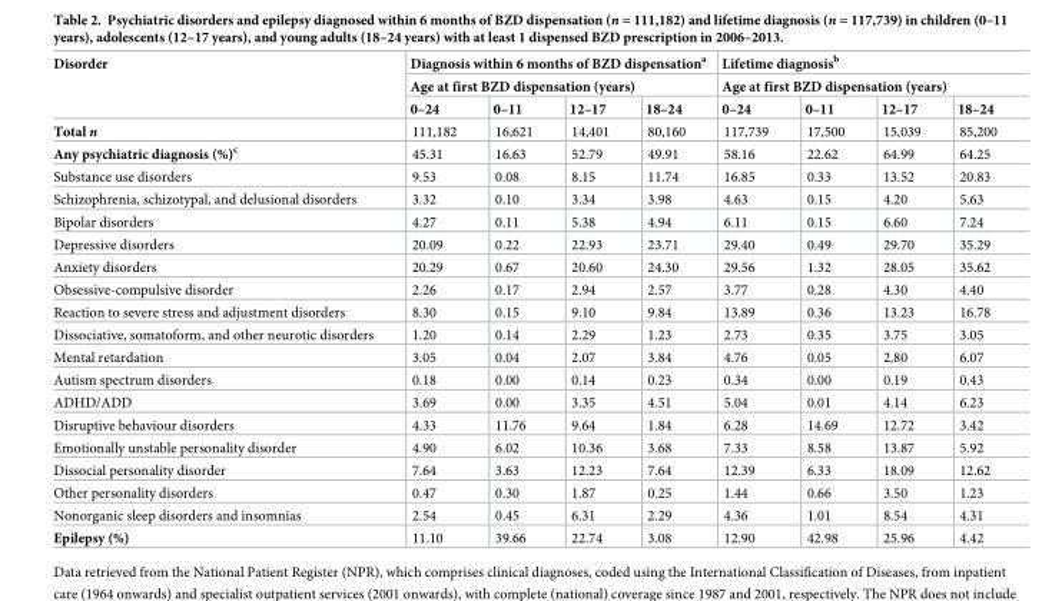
<table><thead><tr><td rowspan="3">Disorder</td><td rowspan="2" colspan="4">Diagnosis within 6 months of BZD dispensation<sup>a</sup> Age at first BZD dispensation (years)</td><td rowspan="2" colspan="4">Lifetime diagnosis<sup>b</sup> Age at first BZD dispensation (years)</td></tr><tr></tr><tr><td>0–24</td><td>0–11</td><td>12–17</td><td>18–24</td><td>0–24</td><td>0–11</td><td>12–17</td><td>18–24</td></tr></thead><tbody><tr><td>Total n</td><td>111,182</td><td>16,621</td><td>14,401</td><td>80,160</td><td>117,739</td><td>17,500</td><td>15,039</td><td>85,200</td></tr><tr><td>Any psychiatric diagnosis (%)<sup>c</sup></td><td>45.31</td><td>16.63</td><td>52.79</td><td>49.91</td><td>58.16</td><td>22.62</td><td>64.99</td><td>64.25</td></tr><tr><td>Substance use disorders</td><td>9.53</td><td>0.08</td><td>8.15</td><td>11.74</td><td>16.85</td><td>0.33</td><td>13.52</td><td>20.83</td></tr><tr><td>Schizophrenia, schizotypal, and delusional disorders</td><td>3.32</td><td>0.10</td><td>3.34</td><td>3.98</td><td>4.63</td><td>0.15</td><td>4.20</td><td>5.63</td></tr><tr><td>Bipolar disorders</td><td>4.27</td><td>0.11</td><td>5.38</td><td>4.94</td><td>6.11</td><td>0.15</td><td>6.60</td><td>7.24</td></tr><tr><td>Depressive disorders</td><td>20.09</td><td>0.22</td><td>22.93</td><td>23.71</td><td>29.40</td><td>0.49</td><td>29.70</td><td>35.29</td></tr><tr><td>Anxiety disorders</td><td>20.29</td><td>0.67</td><td>20.60</td><td>24.30</td><td>29.56</td><td>1.32</td><td>28.05</td><td>35.62</td></tr><tr><td>Obsessive-compulsive disorder</td><td>2.26</td><td>0.17</td><td>2.94</td><td>2.57</td><td>3.77</td><td>0.28</td><td>4.30</td><td>4.40</td></tr><tr><td>Reaction to severe stress and adjustment disorders</td><td>8.30</td><td>0.15</td><td>9.10</td><td>9.84</td><td>13.89</td><td>0.36</td><td>13.23</td><td>16.78</td></tr><tr><td>Dissociative, somatoform, and other neurotic disorders</td><td>1.20</td><td>0.14</td><td>2.29</td><td>1.23</td><td>2.73</td><td>0.35</td><td>3.75</td><td>3.05</td></tr><tr><td>Mental retardation</td><td>3.05</td><td>0.04</td><td>2.07</td><td>3.84</td><td>4.76</td><td>0.05</td><td>2.80</td><td>6.07</td></tr><tr><td>Autism spectrum disorders</td><td>0.18</td><td>0.00</td><td>0.14</td><td>0.23</td><td>0.34</td><td>0.00</td><td>0.19</td><td>0.43</td></tr><tr><td>ADHD/ADD</td><td>3.69</td><td>0.00</td><td>3.35</td><td>4.51</td><td>5.04</td><td>0.01</td><td>4.14</td><td>6.23</td></tr><tr><td>Disruptive behaviour disorders</td><td>4.33</td><td>11.76</td><td>9.64</td><td>1.84</td><td>6.28</td><td>14.69</td><td>12.72</td><td>3.42</td></tr><tr><td>Emotionally unstable personality disorder</td><td>4.90</td><td>6.02</td><td>10.36</td><td>3.68</td><td>7.33</td><td>8.58</td><td>13.87</td><td>5.92</td></tr><tr><td>Dissocial personality disorder</td><td>7.64</td><td>3.63</td><td>12.23</td><td>7.64</td><td>12.39</td><td>6.33</td><td>18.09</td><td>12.62</td></tr><tr><td>Other personality disorders</td><td>0.47</td><td>0.30</td><td>1.87</td><td>0.25</td><td>1.44</td><td>0.66</td><td>3.50</td><td>1.23</td></tr><tr><td>Nonorganic sleep disorders and insomnias</td><td>2.54</td><td>0.45</td><td>6.31</td><td>2.29</td><td>4.36</td><td>1.01</td><td>8.54</td><td>4.31</td></tr><tr><td>Epilepsy (%)</td><td>11.10</td><td>39.66</td><td>22.74</td><td>3.08</td><td>12.90</td><td>42.98</td><td>25.96</td><td>4.42</td></tr></tbody></table>